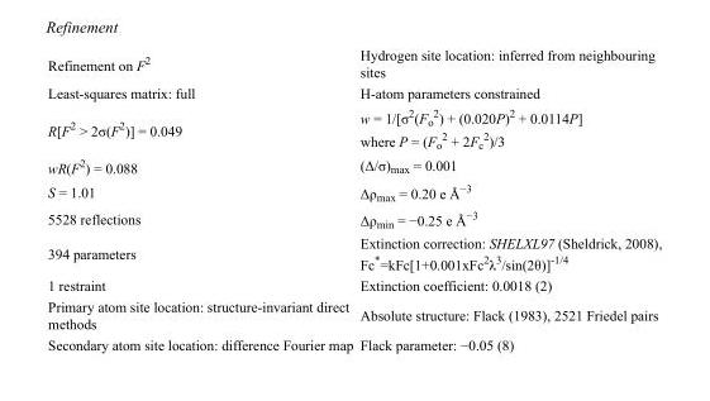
<table><tbody><tr><td>Refinement on F<sup>2</sup></td><td>Hydrogen site location: inferred from neighbouring sites</td></tr><tr><td>Least-squares matrix: full</td><td>H-atom parameters constrained</td></tr><tr><td>R[F<sup>2</sup> &gt; 2σ(F<sup>2</sup>)] = 0.049</td><td>w = 1/[σ<sup>2</sup>(F<sub>o</sub> <sup>2</sup>) + (0.020P)<sup>2</sup> + 0.0114P] where P = (F<sub>o</sub> <sup>2</sup> + 2F<sub>c</sub> <sup>2</sup>)/3</td></tr><tr><td>wR(F<sup>2</sup>) = 0.088</td><td>(Δ/σ)<sub>max</sub> = 0.001</td></tr><tr><td>S = 1.01</td><td>Δρ<sub>max</sub> = 0.20 e Å<sup>−3</sup></td></tr><tr><td>5528 reflections</td><td>Δρ<sub>min</sub> = −0.25 e Å<sup>−3</sup></td></tr><tr><td>394 parameters</td><td>Extinction correction: SHELXL97 (Sheldrick, 2008), Fc*=kFc[1+0.001xFc<sup>2</sup>λ<sup>3</sup>/sin(2θ)]<sup>-1/4</sup></td></tr><tr><td>1 restraint</td><td>Extinction coefficient: 0.0018 (2)</td></tr><tr><td>Primary atom site location: structure-invariant direct methods</td><td>Absolute structure: Flack (1983), 2521 Friedel pairs</td></tr><tr><td>Secondary atom site location: difference Fourier map</td><td>Flack parameter: −0.05 (8)</td></tr></tbody></table>